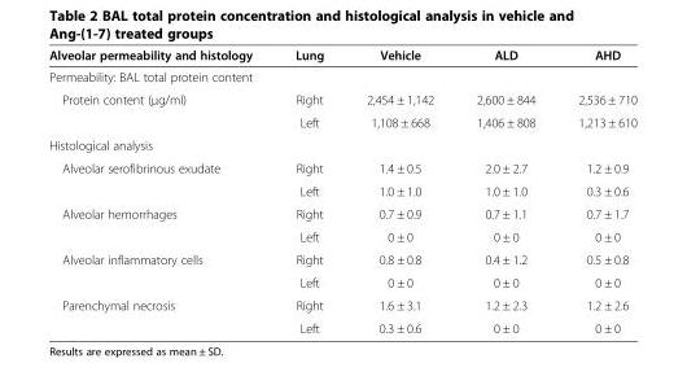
<table><thead><tr><td>Alveolar permeability and histology</td><td>Lung</td><td>Vehicle</td><td>ALD</td><td>AHD</td></tr></thead><tbody><tr><td colspan="5">Permeability: BAL total protein content</td></tr><tr><td rowspan="2">Protein content (μg/ml)</td><td>Right</td><td>2,454 ± 1,142</td><td>2,600 ± 844</td><td>2,536 ± 710</td></tr><tr><td>Left</td><td>1,108 ± 668</td><td>1,406 ± 808</td><td>1,213 ± 610</td></tr><tr><td colspan="5">Histological analysis</td></tr><tr><td rowspan="2">Alveolar serofibrinous exudate</td><td>Right</td><td>1.4 ± 0.5</td><td>2.0 ± 2.7</td><td>1.2 ± 0.9</td></tr><tr><td>Left</td><td>1.0 ± 1.0</td><td>1.0 ± 1.0</td><td>0.3 ± 0.6</td></tr><tr><td rowspan="2">Alveolar hemorrhages</td><td>Right</td><td>0.7 ± 0.9</td><td>0.7 ± 1.1</td><td>0.7 ± 1.7</td></tr><tr><td>Left</td><td>0 ± 0</td><td>0 ± 0</td><td>0 ± 0</td></tr><tr><td rowspan="2">Alveolar inflammatory cells</td><td>Right</td><td>0.8 ± 0.8</td><td>0.4 ± 1.2</td><td>0.5 ± 0.8</td></tr><tr><td>Left</td><td>0 ± 0</td><td>0 ± 0</td><td>0 ± 0</td></tr><tr><td rowspan="2">Parenchymal necrosis</td><td>Right</td><td>1.6 ± 3.1</td><td>1.2 ± 2.3</td><td>1.2 ± 2.6</td></tr><tr><td>Left</td><td>0.3 ± 0.6</td><td>0 ± 0</td><td>0 ± 0</td></tr></tbody></table>